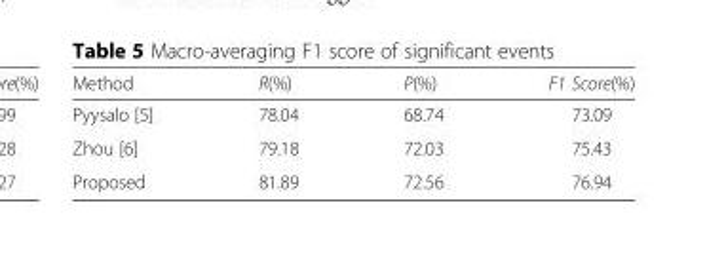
<table><thead><tr><td>Method</td><td>R(%)</td><td>P(%)</td><td>F1 Score(%)</td></tr></thead><tbody><tr><td>Pyysalo [5]</td><td>78.04</td><td>68.74</td><td>73.09</td></tr><tr><td>Zhou [6]</td><td>79.18</td><td>72.03</td><td>75.43</td></tr><tr><td>Proposed</td><td>81.89</td><td>72.56</td><td>76.94</td></tr></tbody></table>